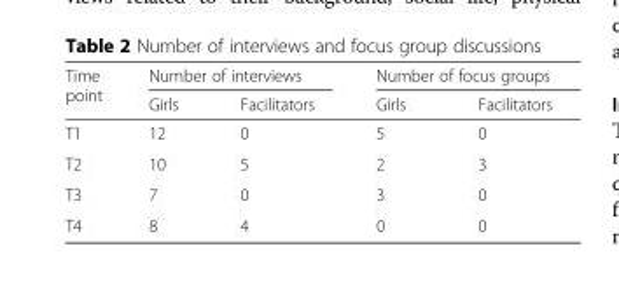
<table><thead><tr><td rowspan="2">Time point</td><td colspan="2">Number of interviews</td><td colspan="2">Number of focus groups</td></tr><tr><td>Girls</td><td>Facilitators</td><td>Girls</td><td>Facilitators</td></tr></thead><tbody><tr><td>T1</td><td>12</td><td>0</td><td>5</td><td>0</td></tr><tr><td>T2</td><td>10</td><td>5</td><td>2</td><td>3</td></tr><tr><td>T3</td><td>7</td><td>0</td><td>3</td><td>0</td></tr><tr><td>T4</td><td>8</td><td>4</td><td>0</td><td>0</td></tr></tbody></table>